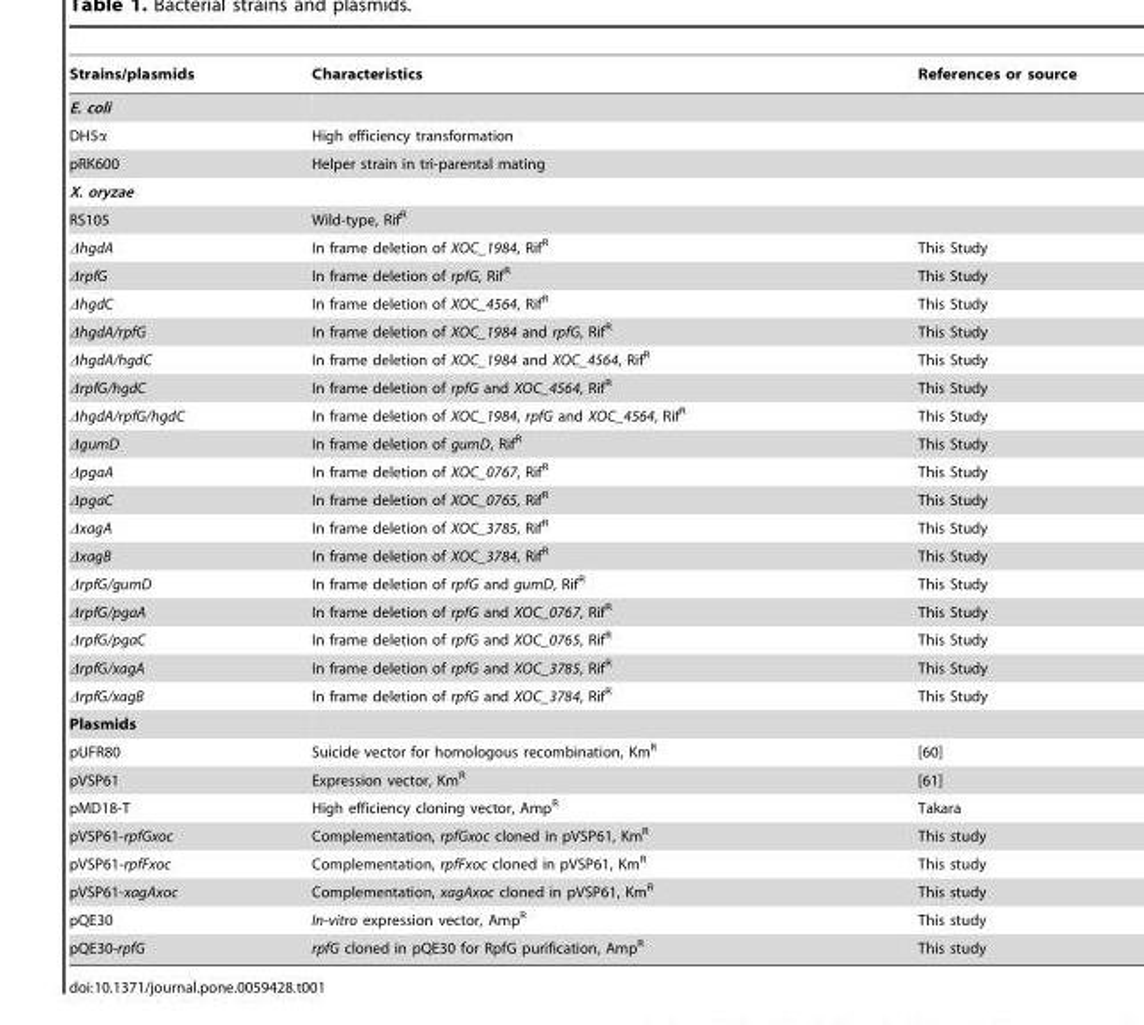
<table><thead><tr><td>Strains/plasmids</td><td>Characteristics</td><td>References or source</td></tr></thead><tbody><tr><td colspan="3">E. coli</td></tr><tr><td>DH5α</td><td>High efficiency transformation</td><td></td></tr><tr><td>pRK600</td><td>Helper strain in tri-parental mating</td><td></td></tr><tr><td colspan="3">X. oryzae</td></tr><tr><td>RS105</td><td>Wild-type, Rif<sup>R</sup></td><td></td></tr><tr><td>ΔhgdA</td><td>In frame deletion of XOC_1984, Rif<sup>R</sup></td><td>This Study</td></tr><tr><td>ΔrpfG</td><td>In frame deletion of rpfG, Rif<sup>R</sup></td><td>This Study</td></tr><tr><td>ΔhgdC</td><td>In frame deletion of XOC_4564, Rif<sup>R</sup></td><td>This Study</td></tr><tr><td>ΔhgdA/rpfG</td><td>In frame deletion of XOC_1984 and rpfG, Rif<sup>R</sup></td><td>This Study</td></tr><tr><td>ΔhgdA/hgdC</td><td>In frame deletion of XOC_1984 and XOC_4564, Rif<sup>R</sup></td><td>This Study</td></tr><tr><td>ΔrpfG/hgdC</td><td>In frame deletion of rpfG and XOC_4564, Rif<sup>R</sup></td><td>This Study</td></tr><tr><td>ΔhgdA/rpfG/hgdC</td><td>In frame deletion of XOC_1984, rpfG and XOC_4564, Rif<sup>R</sup></td><td>This Study</td></tr><tr><td>ΔgumD</td><td>In frame deletion of gumD, Rif<sup>R</sup></td><td>This Study</td></tr><tr><td>ΔpgaA</td><td>In frame deletion of XOC_0767, Rif<sup>R</sup></td><td>This Study</td></tr><tr><td>ΔpgaC</td><td>In frame deletion of XOC_0765, Rif<sup>R</sup></td><td>This Study</td></tr><tr><td>ΔxagA</td><td>In frame deletion of XOC_3785, Rif<sup>R</sup></td><td>This Study</td></tr><tr><td>ΔxagB</td><td>In frame deletion of XOC_3784, Rif<sup>R</sup></td><td>This Study</td></tr><tr><td>ΔrpfG/gumD</td><td>In frame deletion of rpfG and gumD, Rif<sup>R</sup></td><td>This Study</td></tr><tr><td>ΔrpfG/pgaA</td><td>In frame deletion of rpfG and XOC_0767, Rif<sup>R</sup></td><td>This Study</td></tr><tr><td>ΔrpfG/pgaC</td><td>In frame deletion of rpfG and XOC_0765, Rif<sup>R</sup></td><td>This Study</td></tr><tr><td>ΔrpfG/xagA</td><td>In frame deletion of rpfG and XOC_3785, Rif<sup>R</sup></td><td>This Study</td></tr><tr><td>ΔrpfG/xagB</td><td>In frame deletion of rpfG and XOC_3784, Rif<sup>R</sup></td><td>This Study</td></tr><tr><td colspan="3">Plasmids</td></tr><tr><td>pUFR80</td><td>Suicide vector for homologous recombination, Km<sup>R</sup></td><td>[60]</td></tr><tr><td>pVSP61</td><td>Expression vector, Km<sup>R</sup></td><td>[61]</td></tr><tr><td>pMD18-T</td><td>High efficiency cloning vector, Amp<sup>R</sup></td><td>Takara</td></tr><tr><td>pVSP61-rpfGxoc</td><td>Complementation, rpfGxoc cloned in pVSP61, Km<sup>R</sup></td><td>This study</td></tr><tr><td>pVSP61-rpfFxoc</td><td>Complementation, rpfFxoc cloned in pVSP61, Km<sup>R</sup></td><td>This study</td></tr><tr><td>pVSP61-xagAxoc</td><td>Complementation, xagAxoc cloned in pVSP61, Km<sup>R</sup></td><td>This study</td></tr><tr><td>pQE30</td><td>In-vitro expression vector, Amp<sup>R</sup></td><td>This study</td></tr><tr><td>pQE30-rpfG</td><td>rpfG cloned in pQE30 for RpfG purification, Amp<sup>R</sup></td><td>This study</td></tr></tbody></table>